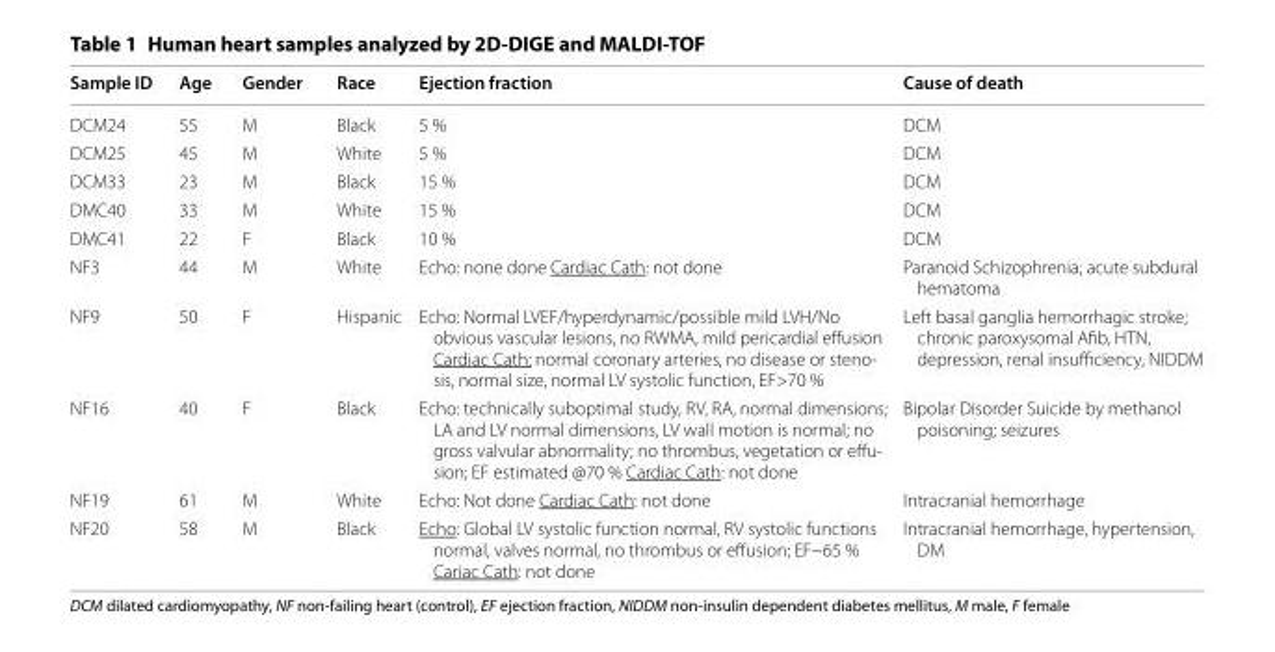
<table><thead><tr><td>Sample ID</td><td>Age</td><td>Gender</td><td>Race</td><td>Ejection fraction</td><td>Cause of death</td></tr></thead><tbody><tr><td>DCM24</td><td>55</td><td>M</td><td>Black</td><td>5 %</td><td>DCM</td></tr><tr><td>DCM25</td><td>45</td><td>M</td><td>White</td><td>5 %</td><td>DCM</td></tr><tr><td>DCM33</td><td>23</td><td>M</td><td>Black</td><td>15 %</td><td>DCM</td></tr><tr><td>DMC40</td><td>33</td><td>M</td><td>White</td><td>15 %</td><td>DCM</td></tr><tr><td>DMC41</td><td>22</td><td>F</td><td>Black</td><td>10 %</td><td>DCM</td></tr><tr><td>NF3</td><td>44</td><td>M</td><td>White</td><td>Echo: none done Cardiac Cath: not done</td><td>Paranoid Schizophrenia; acute subdural hematoma</td></tr><tr><td>NF9</td><td>50</td><td>F</td><td>Hispanic</td><td>Echo: Normal LVEF/hyperdynamic/possible mild LVH/No obvious vascular lesions, no RWMA, mild pericardial effusion Cardiac Cath: normal coronary arteries, no disease or steno- sis, normal size, normal LV systolic function, EF&gt;70 %</td><td>Left basal ganglia hemorrhagic stroke; chronic paroxysomal Afib, HTN, depression, renal insufficiency, NIDDM</td></tr><tr><td>NF16</td><td>40</td><td>F</td><td>Black</td><td>Echo: technically suboptimal study, RV, RA, normal dimensions; LA and LV normal dimensions, LV wall motion is normal; no gross valvular abnormality; no thrombus, vegetation or effu- sion; EF estimated @70 % Cardiac Cath: not done</td><td>Bipolar Disorder Suicide by methanol poisoning; seizures</td></tr><tr><td>NF19</td><td>61</td><td>M</td><td>White</td><td>Echo: Not done Cardiac Cath: not done</td><td>Intracranial hemorrhage</td></tr><tr><td>NF20</td><td>58</td><td>M</td><td>Black</td><td>Echo: Global LV systolic function normal, RV systolic functions normal, valves normal, no thrombus or effusion; EF~65 % Cariac Cath: not done</td><td>Intracranial hemorrhage, hypertension, DM</td></tr></tbody></table>